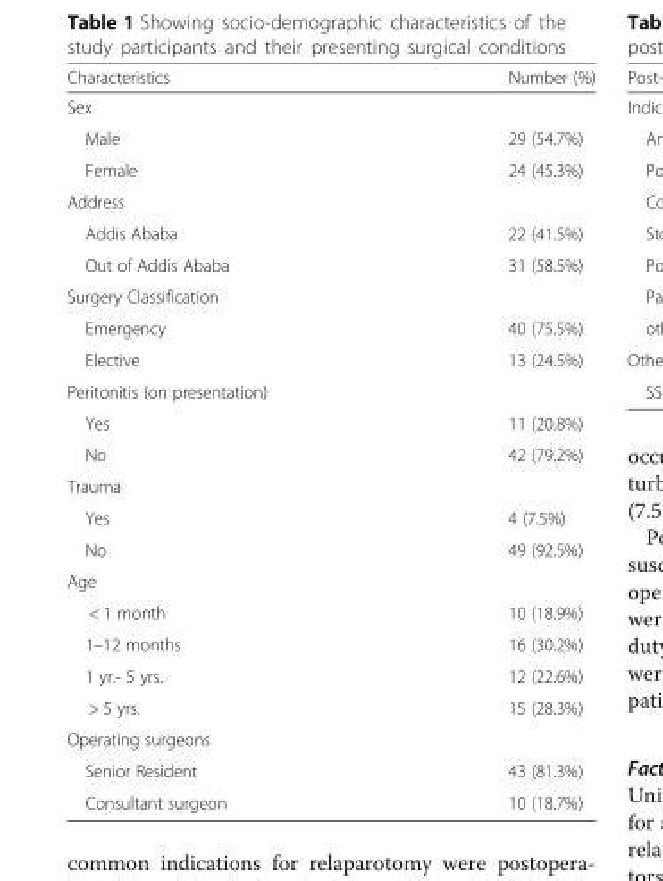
<table><thead><tr><td>Characteristics</td><td>Number (%)</td></tr></thead><tbody><tr><td colspan="2">Sex</td></tr><tr><td>Male</td><td>29 (54.7%)</td></tr><tr><td>Female</td><td>24 (45.3%)</td></tr><tr><td colspan="2">Address</td></tr><tr><td>Addis Ababa</td><td>22 (41.5%)</td></tr><tr><td>Out of Addis Ababa</td><td>31 (58.5%)</td></tr><tr><td colspan="2">Surgery Classification</td></tr><tr><td>Emergency</td><td>40 (75.5%)</td></tr><tr><td>Elective</td><td>13 (24.5%)</td></tr><tr><td colspan="2">Peritonitis (on presentation)</td></tr><tr><td>Yes</td><td>11 (20.8%)</td></tr><tr><td>No</td><td>42 (79.2%)</td></tr><tr><td colspan="2">Trauma</td></tr><tr><td>Yes</td><td>4 (7.5%)</td></tr><tr><td>No</td><td>49 (92.5%)</td></tr><tr><td colspan="2">Age</td></tr><tr><td>&lt; 1 month</td><td>10 (18.9%)</td></tr><tr><td>1–12 months</td><td>16 (30.2%)</td></tr><tr><td>1 yr.- 5 yrs.</td><td>12 (22.6%)</td></tr><tr><td>&gt; 5 yrs.</td><td>15 (28.3%)</td></tr><tr><td colspan="2">Operating surgeons</td></tr><tr><td>Senior Resident</td><td>43 (81.3%)</td></tr><tr><td>Consultant surgeon</td><td>10 (18.7%)</td></tr></tbody></table>